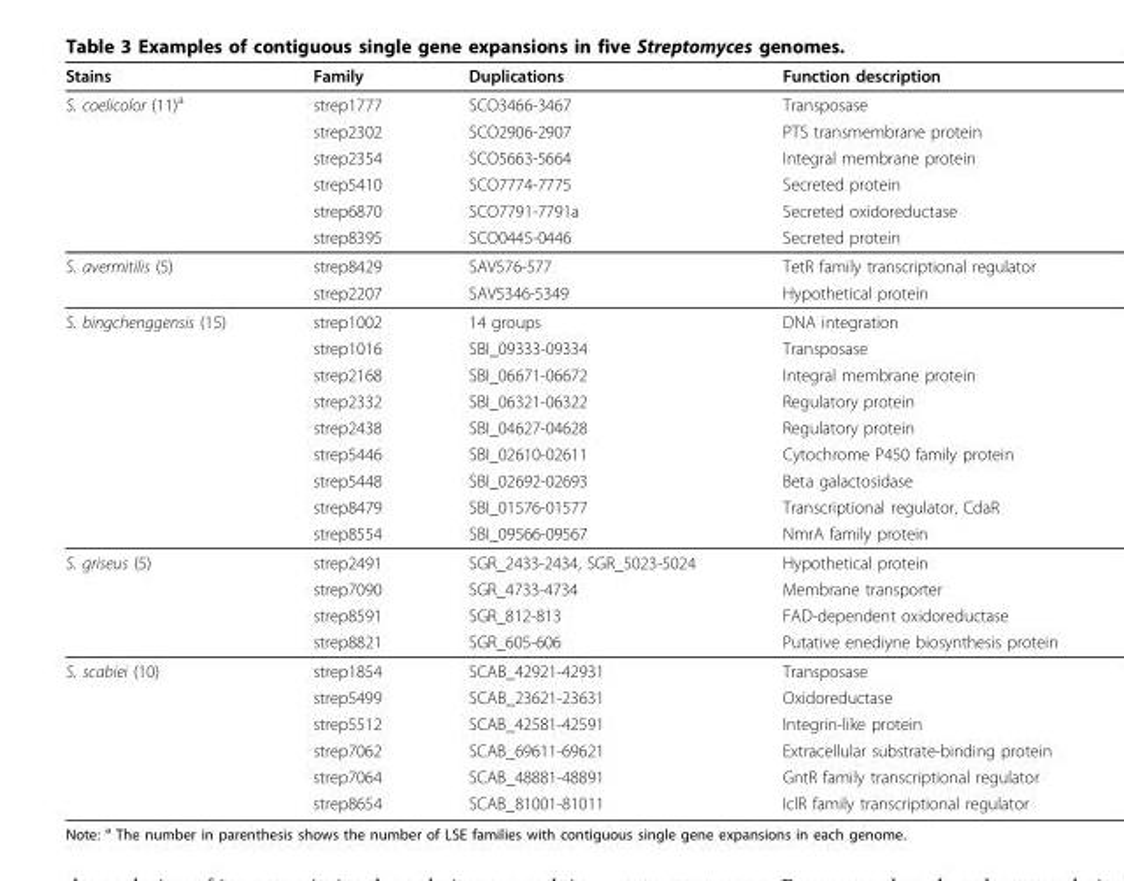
<table><thead><tr><td>Stains</td><td>Family</td><td>Duplications</td><td>Function description</td></tr></thead><tbody><tr><td rowspan="6">S. coelicolor (11)<sup>a</sup></td><td>strep1777</td><td>SCO3466-3467</td><td>Transposase</td></tr><tr><td>strep2302</td><td>SCO2906-2907</td><td>PTS transmembrane protein</td></tr><tr><td>strep2354</td><td>SCO5663-5664</td><td>Integral membrane protein</td></tr><tr><td>strep5410</td><td>SCO7774-7775</td><td>Secreted protein</td></tr><tr><td>strep6870</td><td>SCO7791-7791a</td><td>Secreted oxidoreductase</td></tr><tr><td>strep8395</td><td>SCO0445-0446</td><td>Secreted protein</td></tr><tr><td rowspan="2">S. avermitilis (5)</td><td>strep8429</td><td>SAV576-577</td><td>TetR family transcriptional regulator</td></tr><tr><td>strep2207</td><td>SAV5346-5349</td><td>Hypothetical protein</td></tr><tr><td rowspan="9">S. bingchenggensis (15)</td><td>strep1002</td><td>14 groups</td><td>DNA integration</td></tr><tr><td>strep1016</td><td>SBI_09333-09334</td><td>Transposase</td></tr><tr><td>strep2168</td><td>SBI_06671-06672</td><td>Integral membrane protein</td></tr><tr><td>strep2332</td><td>SBI_06321-06322</td><td>Regulatory protein</td></tr><tr><td>strep2438</td><td>SBI_04627-04628</td><td>Regulatory protein</td></tr><tr><td>strep5446</td><td>SBI_02610-02611</td><td>Cytochrome P450 family protein</td></tr><tr><td>strep5448</td><td>SBI_02692-02693</td><td>Beta galactosidase</td></tr><tr><td>strep8479</td><td>SBI_01576-01577</td><td>Transcriptional regulator, CdaR</td></tr><tr><td>strep8554</td><td>SBI_09566-09567</td><td>NmrA family protein</td></tr><tr><td rowspan="4">S. griseus (5)</td><td>strep2491</td><td>SGR_2433-2434, SGR_5023-5024</td><td>Hypothetical protein</td></tr><tr><td>strep7090</td><td>SGR_4733-4734</td><td>Membrane transporter</td></tr><tr><td>strep8591</td><td>SGR_812-813</td><td>FAD-dependent oxidoreductase</td></tr><tr><td>strep8821</td><td>SGR_605-606</td><td>Putative enediyne biosynthesis protein</td></tr><tr><td rowspan="6">S. scabiei (10)</td><td>strep1854</td><td>SCAB_42921-42931</td><td>Transposase</td></tr><tr><td>strep5499</td><td>SCAB_23621-23631</td><td>Oxidoreductase</td></tr><tr><td>strep5512</td><td>SCAB_42581-42591</td><td>Integrin-like protein</td></tr><tr><td>strep7062</td><td>SCAB_69611-69621</td><td>Extracellular substrate-binding protein</td></tr><tr><td>strep7064</td><td>SCAB_48881-48891</td><td>GntR family transcriptional regulator</td></tr><tr><td>strep8654</td><td>SCAB_81001-81011</td><td>IclR family transcriptional regulator</td></tr></tbody></table>